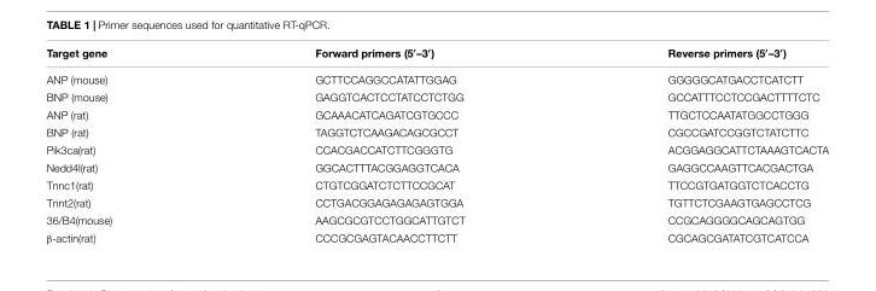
<table><thead><tr><td>Target gene</td><td>Forward primers (5′–3′)</td><td>Reverse primers (5′–3′)</td></tr></thead><tbody><tr><td>ANP (mouse)</td><td>GCTTCCAGGCCATATTGGAG</td><td>GGGGGCATGACCTCATCTT</td></tr><tr><td>BNP (mouse)</td><td>GAGGTCACTCCTATCCTCTGG</td><td>GCCATTTCCTCCGACTTTTCTC</td></tr><tr><td>ANP (rat)</td><td>GCAAACATCAGATCGTGCCC</td><td>TTGCTCCAATATGGCCTGGG</td></tr><tr><td>BNP (rat)</td><td>TAGGTCTCAAGACAGCGCCT</td><td>CGCCGATCCGGTCTATCTTC</td></tr><tr><td>Pik3ca(rat)</td><td>CCACGACCATCTTCGGGTG</td><td>ACGGAGGCATTCTAAAGTCACTA</td></tr><tr><td>Nedd4l(rat)</td><td>GGCACTTTACGGAGGTCACA</td><td>GAGGCCAAGTTCACGACTGA</td></tr><tr><td>Tnnc1(rat)</td><td>CTGTCGGATCTCTTCCGCAT</td><td>TTCCGTGATGGTCTCACCTG</td></tr><tr><td>Tnnt2(rat)</td><td>CCTGACGGAGAGAGAGTGGA</td><td>TGTTCTCGAAGTGAGCCTCG</td></tr><tr><td>36/B4(mouse)</td><td>AAGCGCGTCCTGGCATTGTCT</td><td>CCGCAGGGGCAGCAGTGG</td></tr><tr><td>β-actin(rat)</td><td>CCCGCGAGTACAACCTTCTT</td><td>CGCAGCGATATCGTCATCCA</td></tr></tbody></table>